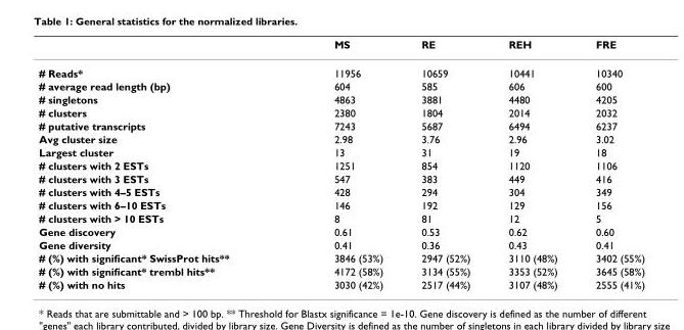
<table><thead><tr><td></td><td>MS</td><td>RE</td><td>REH</td><td>FRE</td></tr></thead><tbody><tr><td># Reads*</td><td>11956</td><td>10659</td><td>10441</td><td>10340</td></tr><tr><td># average read length (bp)</td><td>604</td><td>585</td><td>606</td><td>600</td></tr><tr><td># singletons</td><td>4863</td><td>3881</td><td>4480</td><td>4205</td></tr><tr><td># clusters</td><td>2380</td><td>1804</td><td>2014</td><td>2032</td></tr><tr><td># putative transcripts</td><td>7243</td><td>5687</td><td>6494</td><td>6237</td></tr><tr><td>Avg cluster size</td><td>2.98</td><td>3.76</td><td>2.96</td><td>3.02</td></tr><tr><td>Largest cluster</td><td>13</td><td>31</td><td>19</td><td>18</td></tr><tr><td># clusters with 2 ESTs</td><td>1251</td><td>854</td><td>1120</td><td>1106</td></tr><tr><td># clusters with 3 ESTs</td><td>547</td><td>383</td><td>449</td><td>416</td></tr><tr><td># clusters with 4–5 ESTs</td><td>428</td><td>294</td><td>304</td><td>349</td></tr><tr><td># clusters with 6–10 ESTs</td><td>146</td><td>192</td><td>129</td><td>156</td></tr><tr><td># clusters with &gt; 10 ESTs</td><td>8</td><td>81</td><td>12</td><td>5</td></tr><tr><td>Gene discovery</td><td>0.61</td><td>0.53</td><td>0.62</td><td>0.60</td></tr><tr><td>Gene diversity</td><td>0.41</td><td>0.36</td><td>0.43</td><td>0.41</td></tr><tr><td># (%) with significant* SwissProt hits**</td><td>3846 (53%)</td><td>2947 (52%)</td><td>3110 (48%)</td><td>3402 (55%)</td></tr><tr><td># (%) with significant* trembl hits**</td><td>4172 (58%)</td><td>3134 (55%)</td><td>3353 (52%)</td><td>3645 (58%)</td></tr><tr><td># (%) with no hits</td><td>3030 (42%)</td><td>2517 (44%)</td><td>3107 (48%)</td><td>2555 (41%)</td></tr></tbody></table>